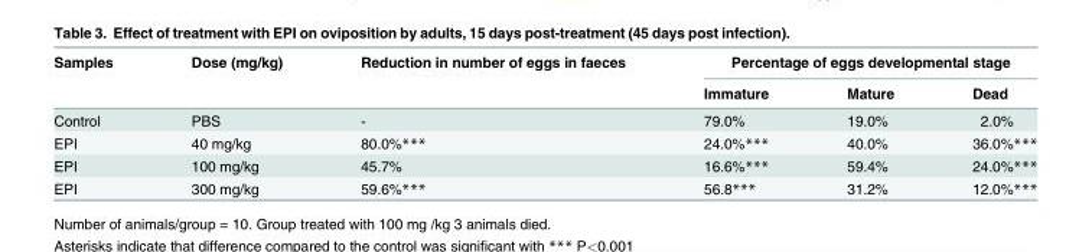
<table><thead><tr><td rowspan="2">Samples</td><td rowspan="2">Dose (mg/kg)</td><td rowspan="2">Reduction in number of eggs in faeces</td><td colspan="3">Percentage of eggs developmental stage</td></tr><tr><td>Immature</td><td>Mature</td><td>Dead</td></tr></thead><tbody><tr><td>Control</td><td>PBS</td><td>-</td><td>79.0%</td><td>19.0%</td><td>2.0%</td></tr><tr><td>EPI</td><td>40 mg/kg</td><td>80.0%***</td><td>24.0%***</td><td>40.0%</td><td>36.0%***</td></tr><tr><td>EPI</td><td>100 mg/kg</td><td>45.7%</td><td>16.6%***</td><td>59.4%</td><td>24.0%***</td></tr><tr><td>EPI</td><td>300 mg/kg</td><td>59.6%***</td><td>56.8***</td><td>31.2%</td><td>12.0%***</td></tr></tbody></table>